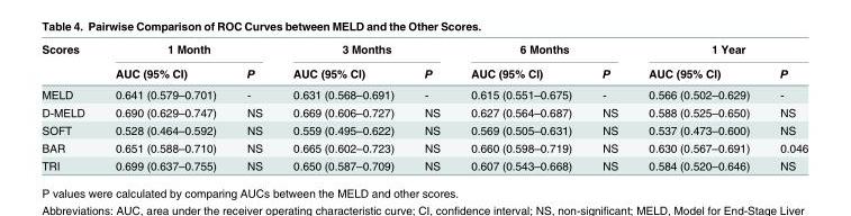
<table><thead><tr><td rowspan="2">Scores</td><td colspan="2">1 Month</td><td colspan="2">3 Months</td><td colspan="2">6 Months</td><td colspan="2">1 Year</td></tr><tr><td>AUC (95% CI)</td><td>P</td><td>AUC (95% CI)</td><td>P</td><td>AUC (95% CI)</td><td>P</td><td>AUC (95% CI)</td><td>P</td></tr></thead><tbody><tr><td>MELD</td><td>0.641 (0.579–0.701)</td><td>-</td><td>0.631 (0.568–0.691)</td><td>-</td><td>0.615 (0.551–0.675)</td><td>-</td><td>0.566 (0.502–0.629)</td><td>-</td></tr><tr><td>D-MELD</td><td>0.690 (0.629–0.747)</td><td>NS</td><td>0.669 (0.606–0.727)</td><td>NS</td><td>0.627 (0.564–0.687)</td><td>NS</td><td>0.588 (0.525–0.650)</td><td>NS</td></tr><tr><td>SOFT</td><td>0.528 (0.464–0.592)</td><td>NS</td><td>0.559 (0.495–0.622)</td><td>NS</td><td>0.569 (0.505–0.631)</td><td>NS</td><td>0.537 (0.473–0.600)</td><td>NS</td></tr><tr><td>BAR</td><td>0.651 (0.588–0.710)</td><td>NS</td><td>0.665 (0.602–0.723)</td><td>NS</td><td>0.660 (0.598–0.719)</td><td>NS</td><td>0.630 (0.567–0.691)</td><td>0.046</td></tr><tr><td>TRI</td><td>0.699 (0.637–0.755)</td><td>NS</td><td>0.650 (0.587–0.709)</td><td>NS</td><td>0.607 (0.543–0.668)</td><td>NS</td><td>0.584 (0.520–0.646)</td><td>NS</td></tr></tbody></table>